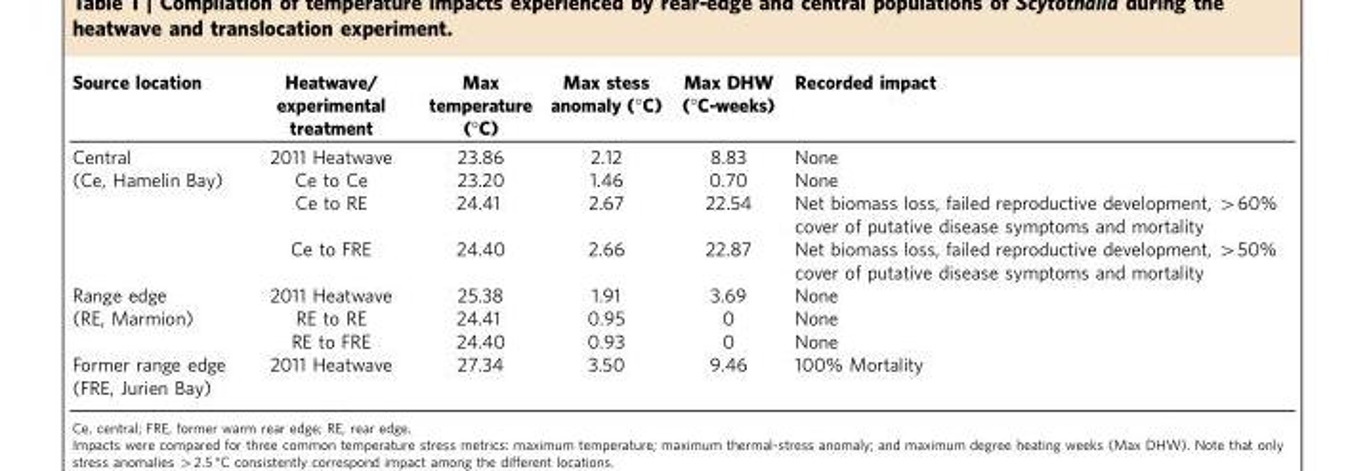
<table><thead><tr><td>Source location</td><td>Heatwave/ experimental treatment</td><td>Max temperature (°C)</td><td>Max stess anomaly (°C)</td><td>Max DHW (°C-weeks)</td><td>Recorded impact</td></tr></thead><tbody><tr><td>Central</td><td>2011 Heatwave</td><td>23.86</td><td>2.12</td><td>8.83</td><td>None</td></tr><tr><td rowspan="3">(Ce, Hamelin Bay)</td><td>Ce to Ce</td><td>23.20</td><td>1.46</td><td>0.70</td><td>None</td></tr><tr><td>Ce to RE</td><td>24.41</td><td>2.67</td><td>22.54</td><td>Net biomass loss, failed reproductive development, &gt;60% cover of putative disease symptoms and mortality</td></tr><tr><td>Ce to FRE</td><td>24.40</td><td>2.66</td><td>22.87</td><td>Net biomass loss, failed reproductive development, &gt;50% cover of putative disease symptoms and mortality</td></tr><tr><td>Range edge</td><td>2011 Heatwave</td><td>25.38</td><td>1.91</td><td>3.69</td><td>None</td></tr><tr><td rowspan="2">(RE, Marmion)</td><td>RE to RE</td><td>24.41</td><td>0.95</td><td>0</td><td>None</td></tr><tr><td>RE to FRE</td><td>24.40</td><td>0.93</td><td>0</td><td>None</td></tr><tr><td>Former range edge (FRE, Jurien Bay)</td><td>2011 Heatwave</td><td>27.34</td><td>3.50</td><td>9.46</td><td>100% Mortality</td></tr></tbody></table>